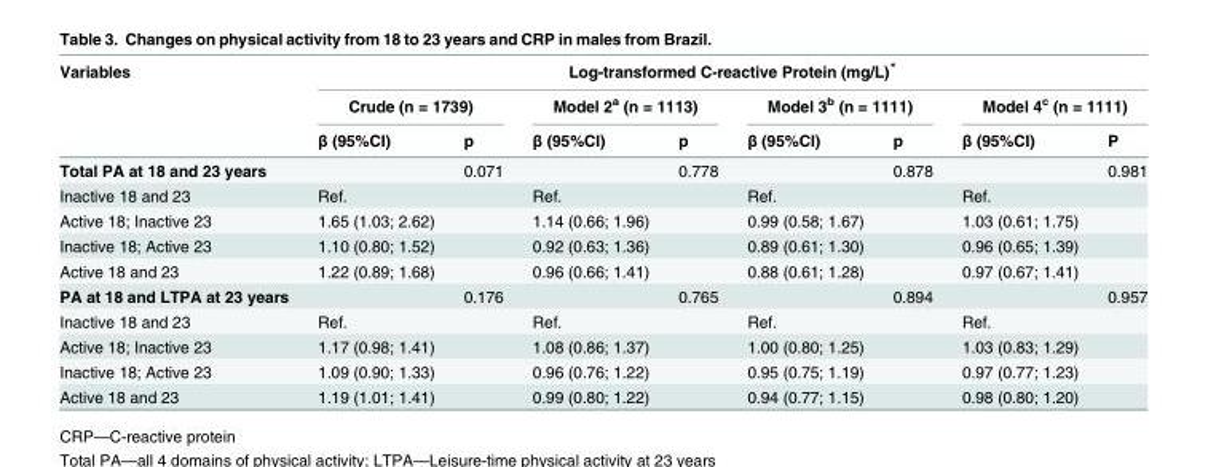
<table><thead><tr><td rowspan="3">Variables</td><td colspan="8">Log-transformed C-reactive Protein (mg/L)*</td></tr><tr><td colspan="2">Crude (n = 1739)</td><td colspan="2">Model 2<sup>a</sup> (n = 1113)</td><td colspan="2">Model 3<sup>b</sup> (n = 1111)</td><td colspan="2">Model 4<sup>c</sup> (n = 1111)</td></tr><tr><td>β (95%CI)</td><td>p</td><td>β (95%CI)</td><td>p</td><td>β (95%CI)</td><td>p</td><td>β (95%CI)</td><td>P</td></tr></thead><tbody><tr><td>Total PA at 18 and 23 years</td><td></td><td>0.071</td><td></td><td>0.778</td><td></td><td>0.878</td><td></td><td>0.981</td></tr><tr><td>Inactive 18 and 23</td><td>Ref.</td><td></td><td>Ref.</td><td></td><td>Ref.</td><td></td><td>Ref.</td><td></td></tr><tr><td>Active 18; Inactive 23</td><td>1.65 (1.03; 2.62)</td><td></td><td>1.14 (0.66; 1.96)</td><td></td><td>0.99 (0.58; 1.67)</td><td></td><td>1.03 (0.61; 1.75)</td><td></td></tr><tr><td>Inactive 18; Active 23</td><td>1.10 (0.80; 1.52)</td><td></td><td>0.92 (0.63; 1.36)</td><td></td><td>0.89 (0.61; 1.30)</td><td></td><td>0.96 (0.65; 1.39)</td><td></td></tr><tr><td>Active 18 and 23</td><td>1.22 (0.89; 1.68)</td><td></td><td>0.96 (0.66; 1.41)</td><td></td><td>0.88 (0.61; 1.28)</td><td></td><td>0.97 (0.67; 1.41)</td><td></td></tr><tr><td>PA at 18 and LTPA at 23 years</td><td></td><td>0.176</td><td></td><td>0.765</td><td></td><td>0.894</td><td></td><td>0.957</td></tr><tr><td>Inactive 18 and 23</td><td>Ref.</td><td></td><td>Ref.</td><td></td><td>Ref.</td><td></td><td>Ref.</td><td></td></tr><tr><td>Active 18; Inactive 23</td><td>1.17 (0.98; 1.41)</td><td></td><td>1.08 (0.86; 1.37)</td><td></td><td>1.00 (0.80; 1.25)</td><td></td><td>1.03 (0.83; 1.29)</td><td></td></tr><tr><td>Inactive 18; Active 23</td><td>1.09 (0.90; 1.33)</td><td></td><td>0.96 (0.76; 1.22)</td><td></td><td>0.95 (0.75; 1.19)</td><td></td><td>0.97 (0.77; 1.23)</td><td></td></tr><tr><td>Active 18 and 23</td><td>1.19 (1.01; 1.41)</td><td></td><td>0.99 (0.80; 1.22)</td><td></td><td>0.94 (0.77; 1.15)</td><td></td><td>0.98 (0.80; 1.20)</td><td></td></tr></tbody></table>